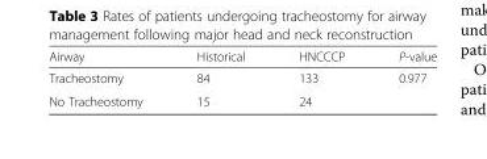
<table><thead><tr><td>Airway</td><td>Historical</td><td>HNCCCP</td><td>P-value</td></tr></thead><tbody><tr><td>Tracheostomy</td><td>84</td><td>133</td><td rowspan="2">0.977</td></tr><tr><td>No Tracheostomy</td><td>15</td><td>24</td></tr></tbody></table>